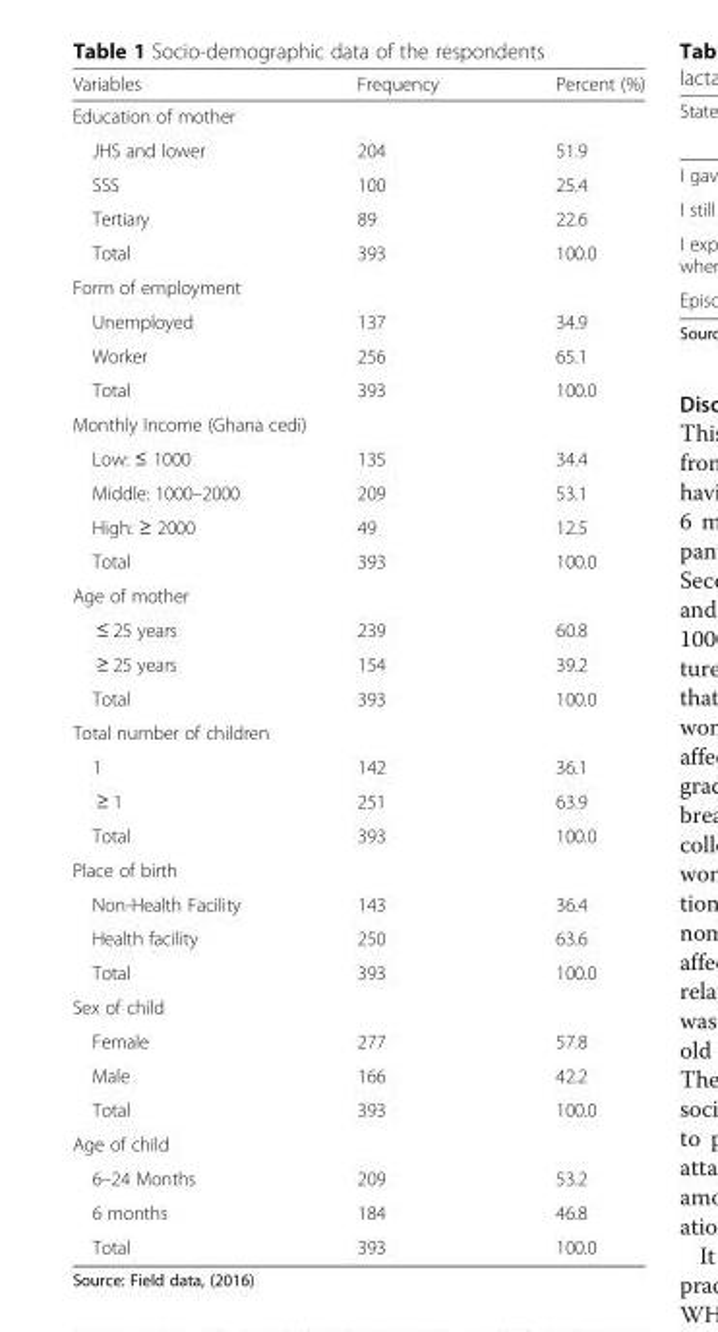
<table><thead><tr><td>Variables</td><td>Frequency</td><td>Percent (%)</td></tr></thead><tbody><tr><td colspan="3">Education of mother</td></tr><tr><td>JHS and lower</td><td>204</td><td>51.9</td></tr><tr><td>SSS</td><td>100</td><td>25.4</td></tr><tr><td>Tertiary</td><td>89</td><td>22.6</td></tr><tr><td>Total</td><td>393</td><td>100.0</td></tr><tr><td colspan="3">Form of employment</td></tr><tr><td>Unemployed</td><td>137</td><td>34.9</td></tr><tr><td>Worker</td><td>256</td><td>65.1</td></tr><tr><td>Total</td><td>393</td><td>100.0</td></tr><tr><td colspan="3">Monthly Income (Ghana cedi)</td></tr><tr><td>Low: ≤ 1000</td><td>135</td><td>34.4</td></tr><tr><td>Middle: 1000–2000</td><td>209</td><td>53.1</td></tr><tr><td>High: ≥ 2000</td><td>49</td><td>12.5</td></tr><tr><td>Total</td><td>393</td><td>100.0</td></tr><tr><td colspan="3">Age of mother</td></tr><tr><td>≤ 25 years</td><td>239</td><td>60.8</td></tr><tr><td>≥ 25 years</td><td>154</td><td>39.2</td></tr><tr><td>Total</td><td>393</td><td>100.0</td></tr><tr><td colspan="3">Total number of children</td></tr><tr><td>1</td><td>142</td><td>36.1</td></tr><tr><td>≥ 1</td><td>251</td><td>63.9</td></tr><tr><td>Total</td><td>393</td><td>100.0</td></tr><tr><td colspan="3">Place of birth</td></tr><tr><td>Non-Health Facility</td><td>143</td><td>36.4</td></tr><tr><td>Health facility</td><td>250</td><td>63.6</td></tr><tr><td>Total</td><td>393</td><td>100.0</td></tr><tr><td colspan="3">Sex of child</td></tr><tr><td>Female</td><td>277</td><td>57.8</td></tr><tr><td>Male</td><td>166</td><td>42.2</td></tr><tr><td>Total</td><td>393</td><td>100.0</td></tr><tr><td colspan="3">Age of child</td></tr><tr><td>6–24 Months</td><td>209</td><td>53.2</td></tr><tr><td>6 months</td><td>184</td><td>46.8</td></tr><tr><td>Total</td><td>393</td><td>100.0</td></tr></tbody></table>